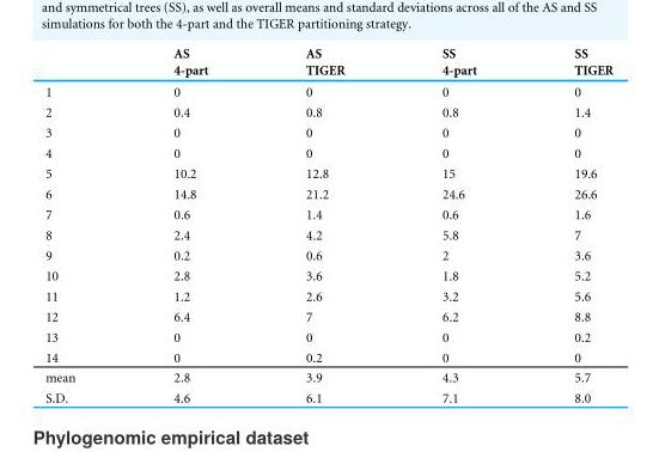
<table><thead><tr><td rowspan="2"></td><td rowspan="2">AS 4-part</td><td rowspan="2">AS TIGER</td><td rowspan="2">SS 4-part</td><td rowspan="2">SS TIGER</td></tr><tr></tr></thead><tbody><tr><td>1</td><td>0</td><td>0</td><td>0</td><td>0</td></tr><tr><td>2</td><td>0.4</td><td>0.8</td><td>0.8</td><td>1.4</td></tr><tr><td>3</td><td>0</td><td>0</td><td>0</td><td>0</td></tr><tr><td>4</td><td>0</td><td>0</td><td>0</td><td>0</td></tr><tr><td>5</td><td>10.2</td><td>12.8</td><td>15</td><td>19.6</td></tr><tr><td>6</td><td>14.8</td><td>21.2</td><td>24.6</td><td>26.6</td></tr><tr><td>7</td><td>0.6</td><td>1.4</td><td>0.6</td><td>1.6</td></tr><tr><td>8</td><td>2.4</td><td>4.2</td><td>5.8</td><td>7</td></tr><tr><td>9</td><td>0.2</td><td>0.6</td><td>2</td><td>3.6</td></tr><tr><td>10</td><td>2.8</td><td>3.6</td><td>1.8</td><td>5.2</td></tr><tr><td>11</td><td>1.2</td><td>2.6</td><td>3.2</td><td>5.6</td></tr><tr><td>12</td><td>6.4</td><td>7</td><td>6.2</td><td>8.8</td></tr><tr><td>13</td><td>0</td><td>0</td><td>0</td><td>0.2</td></tr><tr><td>14</td><td>0</td><td>0.2</td><td>0</td><td>0</td></tr><tr><td>mean</td><td>2.8</td><td>3.9</td><td>4.3</td><td>5.7</td></tr><tr><td>S.D.</td><td>4.6</td><td>6.1</td><td>7.1</td><td>8.0</td></tr></tbody></table>